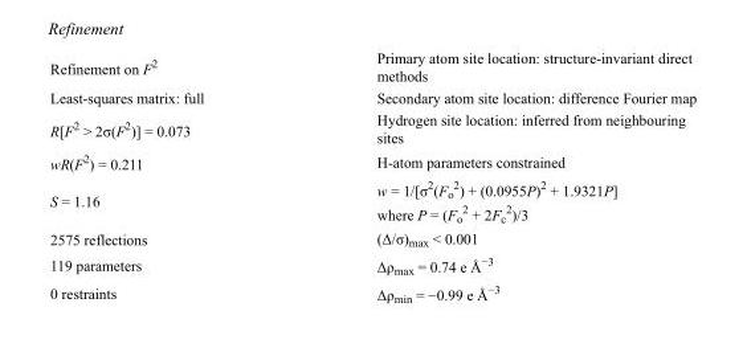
<table><tbody><tr><td>Refinement on F<sup>2</sup></td><td>Primary atom site location: structure-invariant direct methods</td></tr><tr><td>Least-squares matrix: full</td><td>Secondary atom site location: difference Fourier map</td></tr><tr><td>R[F<sup>2</sup> &gt; 2σ(F<sup>2</sup>)] = 0.073</td><td>Hydrogen site location: inferred from neighbouring sites</td></tr><tr><td>wR(F<sup>2</sup>) = 0.211</td><td>H-atom parameters constrained</td></tr><tr><td>S = 1.16</td><td>w = 1/[σ<sup>2</sup>(F<sub>o</sub> <sup>2</sup>) + (0.0955P)<sup>2</sup> + 1.9321P] where P = (F<sub>o</sub> <sup>2</sup> + 2F<sub>c</sub> <sup>2</sup>)/3</td></tr><tr><td>2575 reflections</td><td>(Δ/σ)<sub>max</sub> &lt; 0.001</td></tr><tr><td>119 parameters</td><td>Δρ<sub>max</sub> = 0.74 e Å<sup>−3</sup></td></tr><tr><td>0 restraints</td><td>Δρmin = −0.99 e Å−3</td></tr></tbody></table>